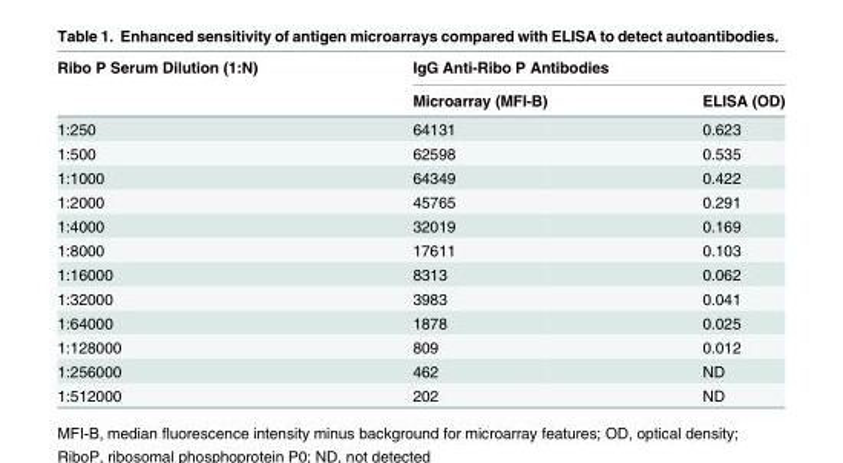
<table><thead><tr><td rowspan="2">Ribo P Serum Dilution (1:N)</td><td colspan="2">IgG Anti-Ribo P Antibodies</td></tr><tr><td>Microarray (MFI-B)</td><td>ELISA (OD)</td></tr></thead><tbody><tr><td>1:250</td><td>64131</td><td>0.623</td></tr><tr><td>1:500</td><td>62598</td><td>0.535</td></tr><tr><td>1:1000</td><td>64349</td><td>0.422</td></tr><tr><td>1:2000</td><td>45765</td><td>0.291</td></tr><tr><td>1:4000</td><td>32019</td><td>0.169</td></tr><tr><td>1:8000</td><td>17611</td><td>0.103</td></tr><tr><td>1:16000</td><td>8313</td><td>0.062</td></tr><tr><td>1:32000</td><td>3983</td><td>0.041</td></tr><tr><td>1:64000</td><td>1878</td><td>0.025</td></tr><tr><td>1:128000</td><td>809</td><td>0.012</td></tr><tr><td>1:256000</td><td>462</td><td>ND</td></tr><tr><td>1:512000</td><td>202</td><td>ND</td></tr></tbody></table>